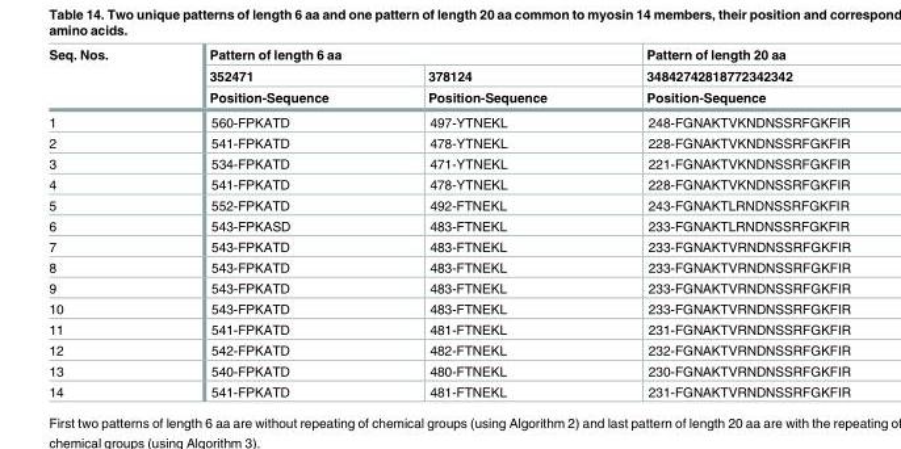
<table><thead><tr><td rowspan="3">Seq. Nos.</td><td colspan="2">Pattern of length 6 aa</td><td rowspan="3">Pattern of length 20 aa 34842742818772342342 Position-Sequence</td></tr><tr><td rowspan="2">352471 Position-Sequence</td><td rowspan="2">378124 Position-Sequence</td></tr><tr></tr></thead><tbody><tr><td>1</td><td>560-FPKATD</td><td>497-YTNEKL</td><td>248-FGNAKTVKNDNSSRFGKFIR</td></tr><tr><td>2</td><td>541-FPKATD</td><td>478-YTNEKL</td><td>228-FGNAKTVKNDNSSRFGKFIR</td></tr><tr><td>3</td><td>534-FPKATD</td><td>471-YTNEKL</td><td>221-FGNAKTVKNDNSSRFGKFIR</td></tr><tr><td>4</td><td>541-FPKATD</td><td>478-YTNEKL</td><td>228-FGNAKTVKNDNSSRFGKFIR</td></tr><tr><td>5</td><td>552-FPKATD</td><td>492-FTNEKL</td><td>243-FGNAKTLRNDNSSRFGKFIR</td></tr><tr><td>6</td><td>543-FPKASD</td><td>483-FTNEKL</td><td>233-FGNAKTLRNDNSSRFGKFIR</td></tr><tr><td>7</td><td>543-FPKATD</td><td>483-FTNEKL</td><td>233-FGNAKTVRNDNSSRFGKFIR</td></tr><tr><td>8</td><td>543-FPKATD</td><td>483-FTNEKL</td><td>233-FGNAKTVRNDNSSRFGKFIR</td></tr><tr><td>9</td><td>543-FPKATD</td><td>483-FTNEKL</td><td>233-FGNAKTVRNDNSSRFGKFIR</td></tr><tr><td>10</td><td>543-FPKATD</td><td>483-FTNEKL</td><td>233-FGNAKTVRNDNSSRFGKFIR</td></tr><tr><td>11</td><td>541-FPKATD</td><td>481-FTNEKL</td><td>231-FGNAKTVRNDNSSRFGKFIR</td></tr><tr><td>12</td><td>542-FPKATD</td><td>482-FTNEKL</td><td>232-FGNAKTVRNDNSSRFGKFIR</td></tr><tr><td>13</td><td>540-FPKATD</td><td>480-FTNEKL</td><td>230-FGNAKTVRNDNSSRFGKFIR</td></tr><tr><td>14</td><td>541-FPKATD</td><td>481-FTNEKL</td><td>231-FGNAKTVRNDNSSRFGKFIR</td></tr></tbody></table>